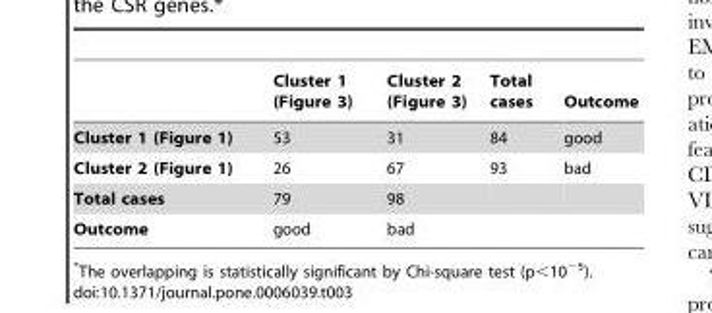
<table><thead><tr><td></td><td>Cluster 1 (Figure 3)</td><td>Cluster 2 (Figure 3)</td><td>Total cases</td><td>Outcome</td></tr></thead><tbody><tr><td>Cluster 1 (Figure 1)</td><td>53</td><td>31</td><td>84</td><td>good</td></tr><tr><td>Cluster 2 (Figure 1)</td><td>26</td><td>67</td><td>93</td><td>bad</td></tr><tr><td>Total cases</td><td>79</td><td>98</td><td></td><td></td></tr><tr><td>Outcome</td><td>good</td><td>bad</td><td></td><td></td></tr></tbody></table>